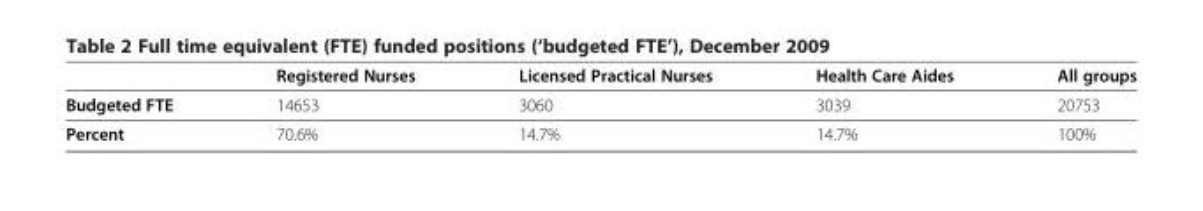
<table><thead><tr><td></td><td>Registered Nurses</td><td>Licensed Practical Nurses</td><td>Health Care Aides</td><td>All groups</td></tr></thead><tbody><tr><td>Budgeted FTE</td><td>14653</td><td>3060</td><td>3039</td><td>20753</td></tr><tr><td>Percent</td><td>70.6%</td><td>14.7%</td><td>14.7%</td><td>100%</td></tr></tbody></table>